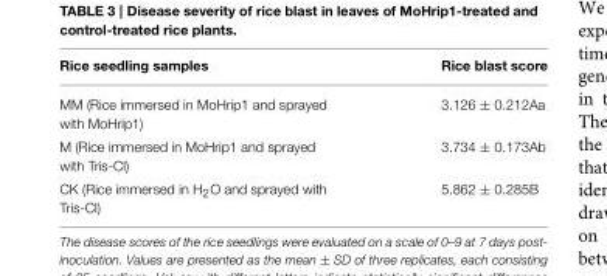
<table><thead><tr><td>Rice seedling samples</td><td>Rice blast score</td></tr></thead><tbody><tr><td>MM (Rice immersed in MoHrip1 and sprayed with MoHrip1)</td><td>3.126 ± 0.212Aa</td></tr><tr><td>M (Rice immersed in MoHrip1 and sprayed with Tris-Cl)</td><td>3.734 ± 0.173Ab</td></tr><tr><td>CK (Rice immersed in H<sub>2</sub>O and sprayed with Tris-Cl)</td><td>5.862 ± 0.285B</td></tr></tbody></table>